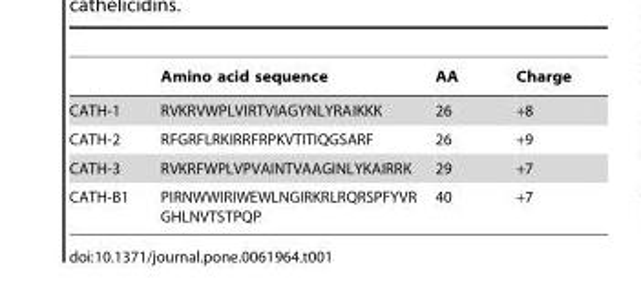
<table><thead><tr><td></td><td>Amino acid sequence</td><td>AA</td><td>Charge</td></tr></thead><tbody><tr><td>CATH-1</td><td>RVKRVWPLVIRTVIAGYNLYRAIKKK</td><td>26</td><td>+8</td></tr><tr><td>CATH-2</td><td>RFGRFLRKIRRFRPKVTITIQGSARF</td><td>26</td><td>+9</td></tr><tr><td>CATH-3</td><td>RVKRFWPLVPVAINTVAAGINLYKAIRRK</td><td>29</td><td>+7</td></tr><tr><td>CATH-B1</td><td>PIRNWWIRIWEWLNGIRKRLRQRSPFYVR GHLNVTSTPQP</td><td>40</td><td>+7</td></tr></tbody></table>